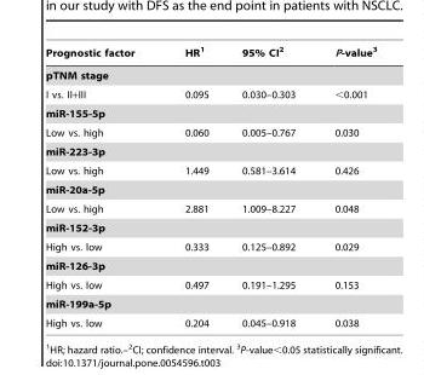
<table><thead><tr><td>Prognostic factor</td><td>HR<sup>1</sup></td><td>95% CI<sup>2</sup></td><td>P-value<sup>3</sup></td></tr></thead><tbody><tr><td colspan="4">pTNM stage</td></tr><tr><td>I vs. II+III</td><td>0.095</td><td>0.030–0.303</td><td>&lt;0.001</td></tr><tr><td colspan="4">miR-155-5p</td></tr><tr><td>Low vs. high</td><td>0.060</td><td>0.005–0.767</td><td>0.030</td></tr><tr><td colspan="4">miR-223-3p</td></tr><tr><td>Low vs. high</td><td>1.449</td><td>0.581–3.614</td><td>0.426</td></tr><tr><td colspan="4">miR-20a-5p</td></tr><tr><td>Low vs. high</td><td>2.881</td><td>1.009–8.227</td><td>0.048</td></tr><tr><td colspan="4">miR-152-3p</td></tr><tr><td>High vs. low</td><td>0.333</td><td>0.125–0.892</td><td>0.029</td></tr><tr><td colspan="4">miR-126-3p</td></tr><tr><td>High vs. low</td><td>0.497</td><td>0.191–1.295</td><td>0.153</td></tr><tr><td colspan="4">miR-199a-5p</td></tr><tr><td>High vs. low</td><td>0.204</td><td>0.045–0.918</td><td>0.038</td></tr></tbody></table>